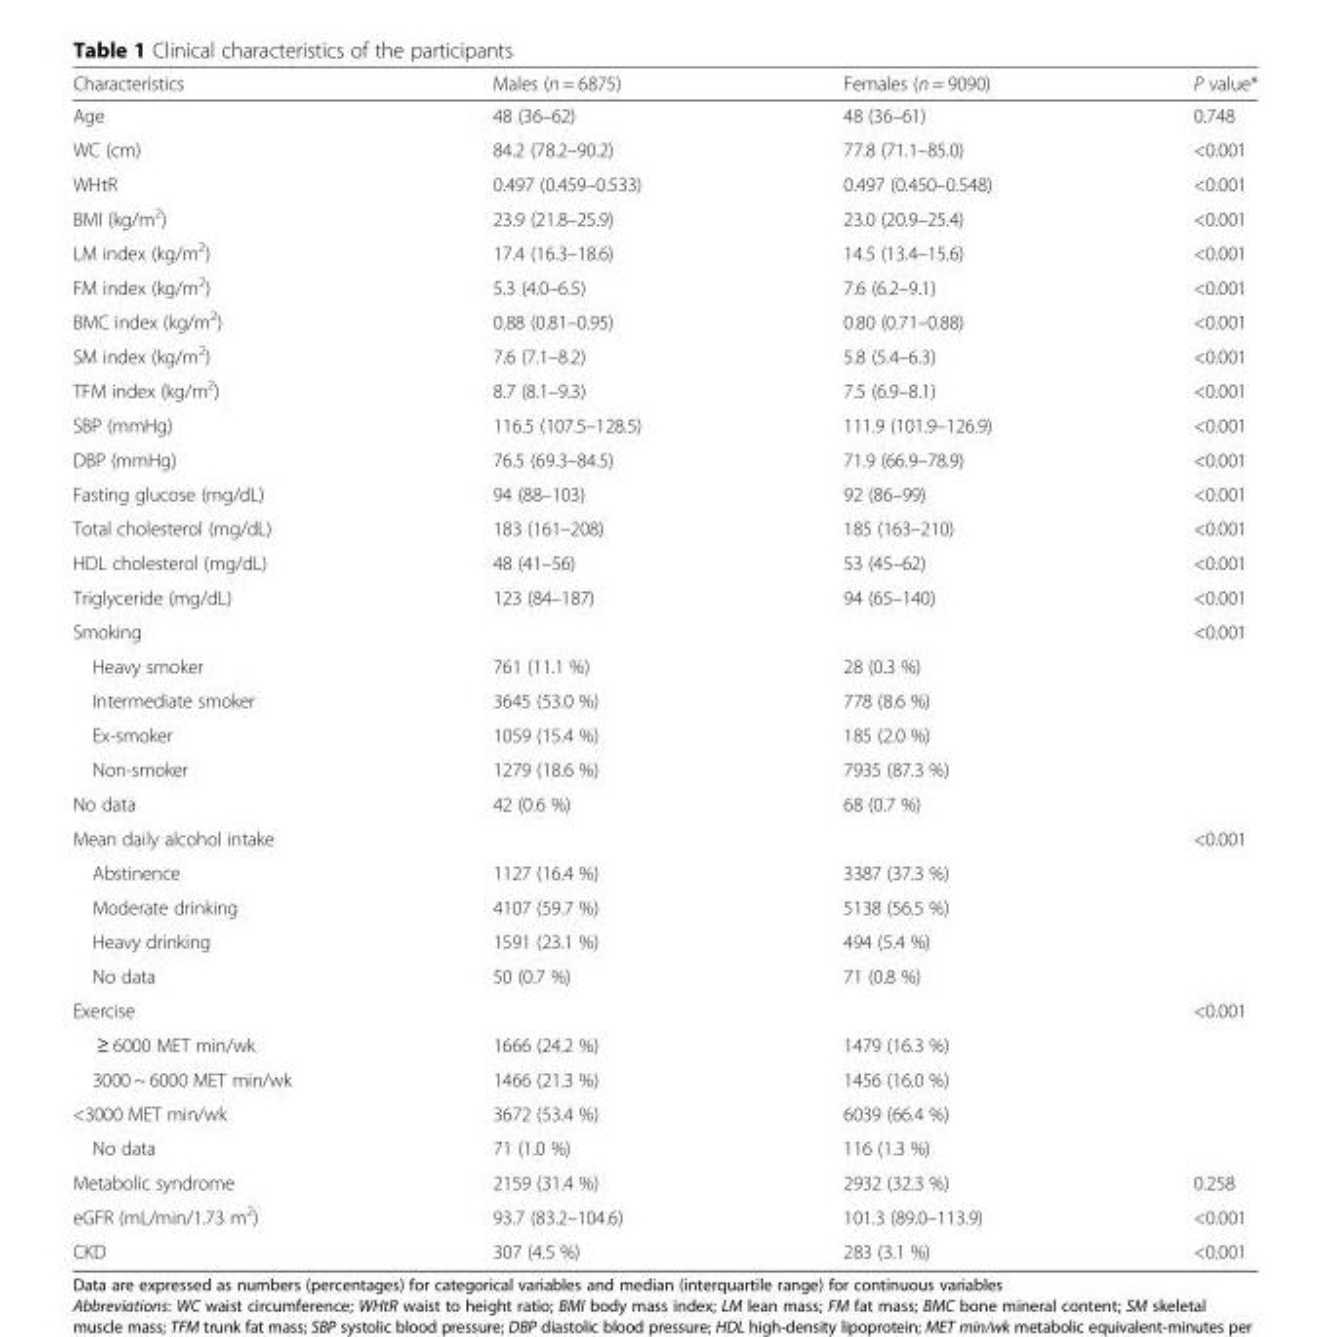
<table><thead><tr><td>Characteristics</td><td>Males (n = 6875)</td><td>Females (n = 9090)</td><td>P value*</td></tr></thead><tbody><tr><td>Age</td><td>48 (36–62)</td><td>48 (36–61)</td><td>0.748</td></tr><tr><td>WC (cm)</td><td>84.2 (78.2–90.2)</td><td>77.8 (71.1–85.0)</td><td>&lt;0.001</td></tr><tr><td>WHtR</td><td>0.497 (0.459–0.533)</td><td>0.497 (0.450–0.548)</td><td>&lt;0.001</td></tr><tr><td>BMI (kg/m<sup>2</sup>)</td><td>23.9 (21.8–25.9)</td><td>23.0 (20.9–25.4)</td><td>&lt;0.001</td></tr><tr><td>LM index (kg/m<sup>2</sup>)</td><td>17.4 (16.3–18.6)</td><td>14.5 (13.4–15.6)</td><td>&lt;0.001</td></tr><tr><td>FM index (kg/m<sup>2</sup>)</td><td>5.3 (4.0–6.5)</td><td>7.6 (6.2–9.1)</td><td>&lt;0.001</td></tr><tr><td>BMC index (kg/m<sup>2</sup>)</td><td>0.88 (0.81–0.95)</td><td>0.80 (0.71–0.88)</td><td>&lt;0.001</td></tr><tr><td>SM index (kg/m<sup>2</sup>)</td><td>7.6 (7.1–8.2)</td><td>5.8 (5.4–6.3)</td><td>&lt;0.001</td></tr><tr><td>TFM index (kg/m<sup>2</sup>)</td><td>8.7 (8.1–9.3)</td><td>7.5 (6.9–8.1)</td><td>&lt;0.001</td></tr><tr><td>SBP (mmHg)</td><td>116.5 (107.5–128.5)</td><td>111.9 (101.9–126.9)</td><td>&lt;0.001</td></tr><tr><td>DBP (mmHg)</td><td>76.5 (69.3–84.5)</td><td>71.9 (66.9–78.9)</td><td>&lt;0.001</td></tr><tr><td>Fasting glucose (mg/dL)</td><td>94 (88–103)</td><td>92 (86–99)</td><td>&lt;0.001</td></tr><tr><td>Total cholesterol (mg/dL)</td><td>183 (161–208)</td><td>185 (163–210)</td><td>&lt;0.001</td></tr><tr><td>HDL cholesterol (mg/dL)</td><td>48 (41–56)</td><td>53 (45–62)</td><td>&lt;0.001</td></tr><tr><td>Triglyceride (mg/dL)</td><td>123 (84–187)</td><td>94 (65–140)</td><td>&lt;0.001</td></tr><tr><td>Smoking</td><td></td><td></td><td>&lt;0.001</td></tr><tr><td>Heavy smoker</td><td>761 (11.1 %)</td><td>28 (0.3 %)</td><td></td></tr><tr><td>Intermediate smoker</td><td>3645 (53.0 %)</td><td>778 (8.6 %)</td><td></td></tr><tr><td>Ex-smoker</td><td>1059 (15.4 %)</td><td>185 (2.0 %)</td><td></td></tr><tr><td>Non-smoker</td><td>1279 (18.6 %)</td><td>7935 (87.3 %)</td><td></td></tr><tr><td>No data</td><td>42 (0.6 %)</td><td>68 (0.7 %)</td><td></td></tr><tr><td>Mean daily alcohol intake</td><td></td><td></td><td>&lt;0.001</td></tr><tr><td>Abstinence</td><td>1127 (16.4 %)</td><td>3387 (37.3 %)</td><td></td></tr><tr><td>Moderate drinking</td><td>4107 (59.7 %)</td><td>5138 (56.5 %)</td><td></td></tr><tr><td>Heavy drinking</td><td>1591 (23.1 %)</td><td>494 (5.4 %)</td><td></td></tr><tr><td>No data</td><td>50 (0.7 %)</td><td>71 (0.8 %)</td><td></td></tr><tr><td>Exercise</td><td></td><td></td><td>&lt;0.001</td></tr><tr><td>≥ 6000 MET min/wk</td><td>1666 (24.2 %)</td><td>1479 (16.3 %)</td><td></td></tr><tr><td>3000 ~ 6000 MET min/wk</td><td>1466 (21.3 %)</td><td>1456 (16.0 %)</td><td></td></tr><tr><td>&lt;3000 MET min/wk</td><td>3672 (53.4 %)</td><td>6039 (66.4 %)</td><td></td></tr><tr><td>No data</td><td>71 (1.0 %)</td><td>116 (1.3 %)</td><td></td></tr><tr><td>Metabolic syndrome</td><td>2159 (31.4 %)</td><td>2932 (32.3 %)</td><td>0.258</td></tr><tr><td>eGFR (mL/min/1.73 m<sup>2</sup>)</td><td>93.7 (83.2–104.6)</td><td>101.3 (89.0–113.9)</td><td>&lt;0.001</td></tr><tr><td>CKD</td><td>307 (4.5 %)</td><td>283 (3.1 %)</td><td>&lt;0.001</td></tr></tbody></table>